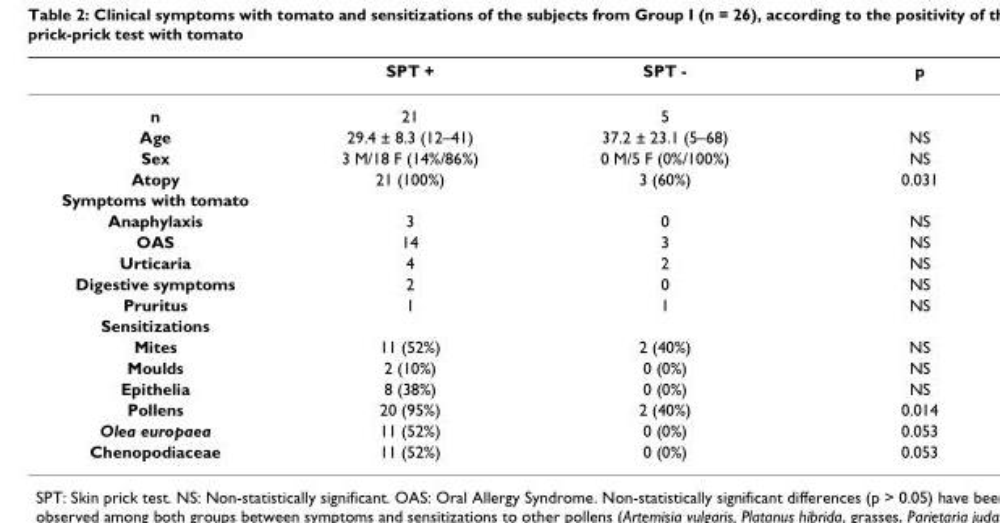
<table><thead><tr><td></td><td>SPT +</td><td>SPT -</td><td>p</td></tr></thead><tbody><tr><td>n</td><td>21</td><td>5</td><td></td></tr><tr><td>Age</td><td>29.4 ± 8.3 (12–41)</td><td>37.2 ± 23.1 (5–68)</td><td>NS</td></tr><tr><td>Sex</td><td>3 M/18 F (14%/86%)</td><td>0 M/5 F (0%/100%)</td><td>NS</td></tr><tr><td>Atopy</td><td>21 (100%)</td><td>3 (60%)</td><td>0.031</td></tr><tr><td colspan="4">Symptoms with tomato</td></tr><tr><td>Anaphylaxis</td><td>3</td><td>0</td><td>NS</td></tr><tr><td>OAS</td><td>14</td><td>3</td><td>NS</td></tr><tr><td>Urticaria</td><td>4</td><td>2</td><td>NS</td></tr><tr><td>Digestive symptoms</td><td>2</td><td>0</td><td>NS</td></tr><tr><td>Pruritus</td><td>1</td><td>1</td><td>NS</td></tr><tr><td colspan="4">Sensitizations</td></tr><tr><td>Mites</td><td>11 (52%)</td><td>2 (40%)</td><td>NS</td></tr><tr><td>Moulds</td><td>2 (10%)</td><td>0 (0%)</td><td>NS</td></tr><tr><td>Epithelia</td><td>8 (38%)</td><td>0 (0%)</td><td>NS</td></tr><tr><td>Pollens</td><td>20 (95%)</td><td>2 (40%)</td><td>0.014</td></tr><tr><td>Olea europaea</td><td>11 (52%)</td><td>0 (0%)</td><td>0.053</td></tr><tr><td>Chenopodiaceae</td><td>11 (52%)</td><td>0 (0%)</td><td>0.053</td></tr></tbody></table>